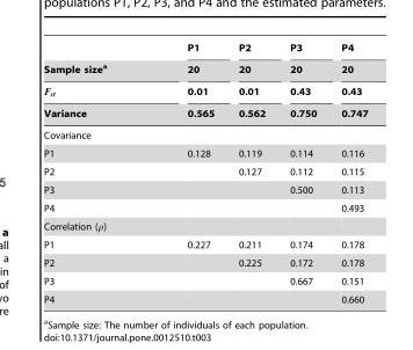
<table><thead><tr><td rowspan="4">Sample sizea Fst Variance</td><td rowspan="4">P1 20 0.01 0.565</td><td rowspan="4">P2 20 0.01 0.562</td><td rowspan="4">P3 20 0.43 0.750</td><td rowspan="4">P4 20 0.43 0.747</td></tr><tr></tr><tr></tr><tr></tr></thead><tbody><tr><td colspan="5">Covariance</td></tr><tr><td>P1</td><td>0.128</td><td>0.119</td><td>0.114</td><td>0.116</td></tr><tr><td>P2</td><td></td><td>0.127</td><td>0.112</td><td>0.115</td></tr><tr><td>P3</td><td></td><td></td><td>0.500</td><td>0.113</td></tr><tr><td>P4</td><td></td><td></td><td></td><td>0.493</td></tr><tr><td colspan="5">Correlation (r)</td></tr><tr><td>P1</td><td>0.227</td><td>0.211</td><td>0.174</td><td>0.178</td></tr><tr><td>P2</td><td></td><td>0.225</td><td>0.172</td><td>0.178</td></tr><tr><td>P3</td><td></td><td></td><td>0.667</td><td>0.151</td></tr><tr><td>P4</td><td></td><td></td><td></td><td>0.660</td></tr></tbody></table>